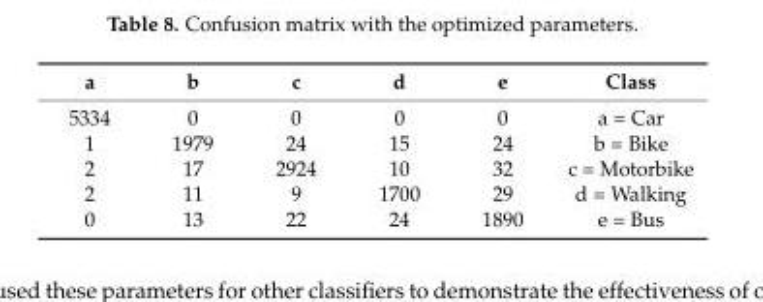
<table><thead><tr><td>a</td><td>b</td><td>c</td><td>d</td><td>e</td><td>Class</td></tr></thead><tbody><tr><td>5334</td><td>0</td><td>0</td><td>0</td><td>0</td><td>a = Car</td></tr><tr><td>1</td><td>1979</td><td>24</td><td>15</td><td>24</td><td>b = Bike</td></tr><tr><td>2</td><td>17</td><td>2924</td><td>10</td><td>32</td><td>c = Motorbike</td></tr><tr><td>2</td><td>11</td><td>9</td><td>1700</td><td>29</td><td>d = Walking</td></tr><tr><td>0</td><td>13</td><td>22</td><td>24</td><td>1890</td><td>e = Bus</td></tr></tbody></table>